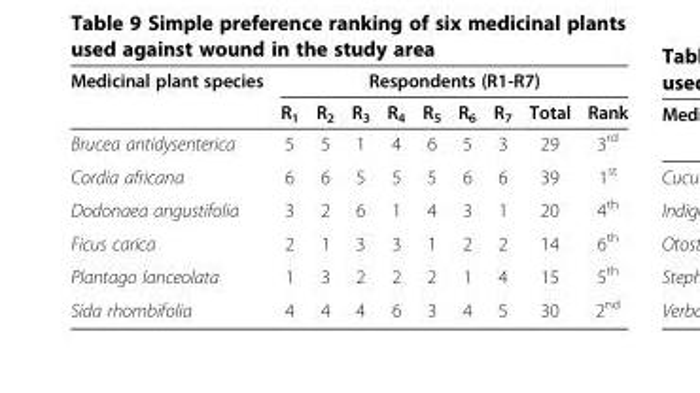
<table><thead><tr><td rowspan="2">Medicinal plant species</td><td colspan="9">Respondents (R1-R7)</td></tr><tr><td>R<sub>1</sub></td><td>R<sub>2</sub></td><td>R<sub>3</sub></td><td>R<sub>4</sub></td><td>R<sub>5</sub></td><td>R<sub>6</sub></td><td>R<sub>7</sub></td><td>Total</td><td>Rank</td></tr></thead><tbody><tr><td>Brucea antidysenterica</td><td>5</td><td>5</td><td>1</td><td>4</td><td>6</td><td>5</td><td>3</td><td>29</td><td>3<sup>rd</sup></td></tr><tr><td>Cordia africana</td><td>6</td><td>6</td><td>5</td><td>5</td><td>5</td><td>6</td><td>6</td><td>39</td><td>1<sup>st</sup></td></tr><tr><td>Dodonaea angustifolia</td><td>3</td><td>2</td><td>6</td><td>1</td><td>4</td><td>3</td><td>1</td><td>20</td><td>4<sup>th</sup></td></tr><tr><td>Ficus carica</td><td>2</td><td>1</td><td>3</td><td>3</td><td>1</td><td>2</td><td>2</td><td>14</td><td>6<sup>th</sup></td></tr><tr><td>Plantago lanceolata</td><td>1</td><td>3</td><td>2</td><td>2</td><td>2</td><td>1</td><td>4</td><td>15</td><td>5<sup>th</sup></td></tr><tr><td>Sida rhombifolia</td><td>4</td><td>4</td><td>4</td><td>6</td><td>3</td><td>4</td><td>5</td><td>30</td><td>2<sup>nd</sup></td></tr></tbody></table>